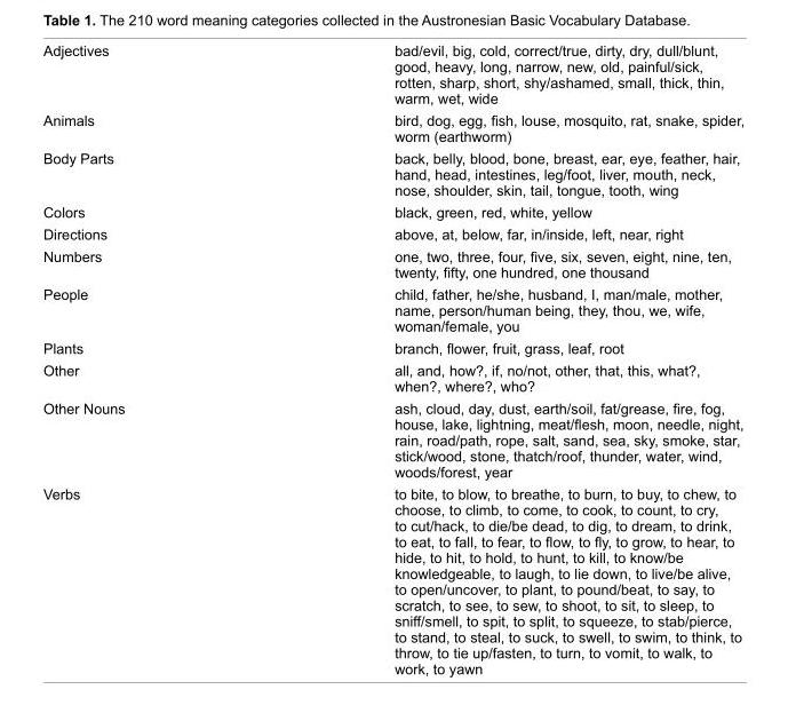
<table><tbody><tr><td>Adjectives</td><td>bad/evil, big, cold, correct/true, dirty, dry, dull/blunt, good, heavy, long, narrow, new, old, painful/sick, rotten, sharp, short, shy/ashamed, small, thick, thin, warm, wet, wide</td></tr><tr><td>Animals</td><td>bird, dog, egg, fi sh, louse, mosquito, rat, snake, spider, worm (earthworm)</td></tr><tr><td>Body Parts</td><td>back, belly, blood, bone, breast, ear, eye, feather, hair, hand, head, intestines, leg/foot, liver, mouth, neck, nose, shoulder, skin, tail, tongue, tooth, wing</td></tr><tr><td>Colors</td><td>black, green, red, white, yellow</td></tr><tr><td>Directions</td><td>above, at, below, far, in/inside, left, near, right</td></tr><tr><td>Numbers</td><td>one, two, three, four, fi ve, six, seven, eight, nine, ten, twenty, fi fty, one hundred, one thousand</td></tr><tr><td>People</td><td>child, father, he/she, husband, I, man/male, mother, name, person/human being, they, thou, we, wife, woman/female, you</td></tr><tr><td>Plants</td><td>branch, fl ower, fruit, grass, leaf, root</td></tr><tr><td>Other</td><td>all, and, how?, if, no/not, other, that, this, what?, when?, where?, who?</td></tr><tr><td>Other Nouns</td><td>ash, cloud, day, dust, earth/soil, fat/grease, fi re, fog, house, lake, lightning, meat/fl esh, moon, needle, night, rain, road/path, rope, salt, sand, sea, sky, smoke, star, stick/wood, stone, thatch/roof, thunder, water, wind, woods/forest, year</td></tr><tr><td>Verbs</td><td>to bite, to blow, to breathe, to burn, to buy, to chew, to choose, to climb, to come, to cook, to count, to cry, to cut/hack, to die/be dead, to dig, to dream, to drink, to eat, to fall, to fear, to fl ow, to fl y, to grow, to hear, to hide, to hit, to hold, to hunt, to kill, to know/be knowledgeable, to laugh, to lie down, to live/be alive, to open/uncover, to plant, to pound/beat, to say, to scratch, to see, to sew, to shoot, to sit, to sleep, to sniff/smell, to spit, to split, to squeeze, to stab/pierce, to stand, to steal, to suck, to swell, to swim, to think, to throw, to tie up/fasten, to turn, to vomit, to walk, to work, to yawn</td></tr></tbody></table>